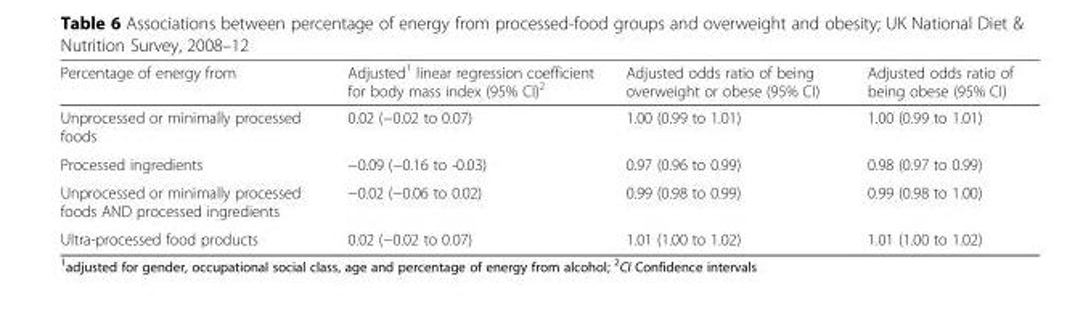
<table><thead><tr><td>Percentage of energy from</td><td>Adjusted<sup>1</sup> linear regression coefficient for body mass index (95% CI)<sup>2</sup></td><td>Adjusted odds ratio of being overweight or obese (95% CI)</td><td>Adjusted odds ratio of being obese (95% CI)</td></tr></thead><tbody><tr><td>Unprocessed or minimally processed foods</td><td>0.02 (−0.02 to 0.07)</td><td>1.00 (0.99 to 1.01)</td><td>1.00 (0.99 to 1.01)</td></tr><tr><td>Processed ingredients</td><td>−0.09 (−0.16 to -0.03)</td><td>0.97 (0.96 to 0.99)</td><td>0.98 (0.97 to 0.99)</td></tr><tr><td>Unprocessed or minimally processed foods AND processed ingredients</td><td>−0.02 (−0.06 to 0.02)</td><td>0.99 (0.98 to 0.99)</td><td>0.99 (0.98 to 1.00)</td></tr><tr><td>Ultra-processed food products</td><td>0.02 (−0.02 to 0.07)</td><td>1.01 (1.00 to 1.02)</td><td>1.01 (1.00 to 1.02)</td></tr></tbody></table>